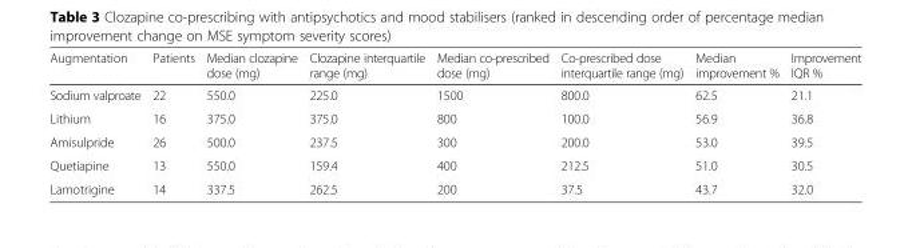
<table><thead><tr><td>Augmentation</td><td>Patients</td><td>Median clozapine dose (mg)</td><td>Clozapine interquartile range (mg)</td><td>Median co-prescribed dose (mg)</td><td>Co-prescribed dose interquartile range (mg)</td><td>Median improvement %</td><td>Improvement IQR %</td></tr></thead><tbody><tr><td>Sodium valproate</td><td>22</td><td>550.0</td><td>225.0</td><td>1500</td><td>800.0</td><td>62.5</td><td>21.1</td></tr><tr><td>Lithium</td><td>16</td><td>375.0</td><td>375.0</td><td>800</td><td>100.0</td><td>56.9</td><td>36.8</td></tr><tr><td>Amisulpride</td><td>26</td><td>500.0</td><td>237.5</td><td>300</td><td>200.0</td><td>53.0</td><td>39.5</td></tr><tr><td>Quetiapine</td><td>13</td><td>550.0</td><td>159.4</td><td>400</td><td>212.5</td><td>51.0</td><td>30.5</td></tr><tr><td>Lamotrigine</td><td>14</td><td>337.5</td><td>262.5</td><td>200</td><td>37.5</td><td>43.7</td><td>32.0</td></tr></tbody></table>